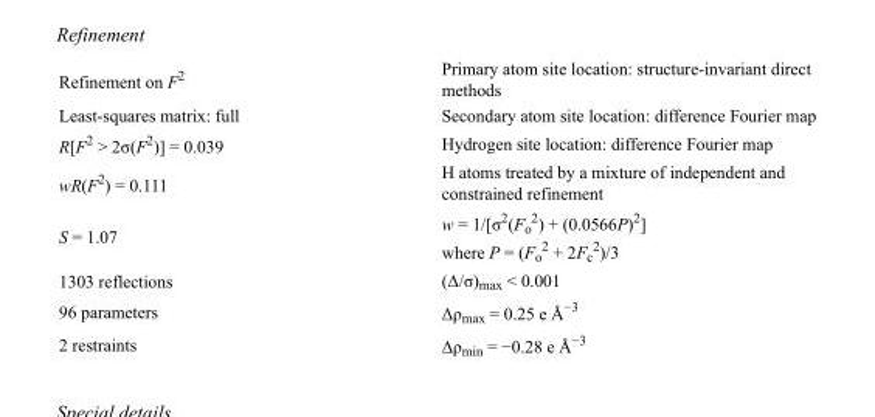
<table><tbody><tr><td>Refinement on F<sup>2</sup></td><td>Primary atom site location: structure-invariant direct methods</td></tr><tr><td>Least-squares matrix: full</td><td>Secondary atom site location: difference Fourier map</td></tr><tr><td>R[F<sup>2</sup> &gt; 2σ(F<sup>2</sup>)] = 0.039</td><td>Hydrogen site location: difference Fourier map</td></tr><tr><td>wR(F<sup>2</sup>) = 0.111</td><td>H atoms treated by a mixture of independent and constrained refinement</td></tr><tr><td>S = 1.07</td><td>w = 1/[σ<sup>2</sup>(F<sub>o</sub> <sup>2</sup>) + (0.0566P)<sup>2</sup>] where P = (F<sub>o</sub> <sup>2</sup> + 2F<sub>c</sub> <sup>2</sup>)/3</td></tr><tr><td>1303 reflections</td><td>(Δ/σ)<sub>max</sub> &lt; 0.001</td></tr><tr><td>96 parameters</td><td>Δρ<sub>max</sub> = 0.25 e Å<sup>−3</sup></td></tr><tr><td>2 restraints</td><td>Δρ<sub>min</sub> = −0.28 e Å<sup>−3</sup></td></tr></tbody></table>